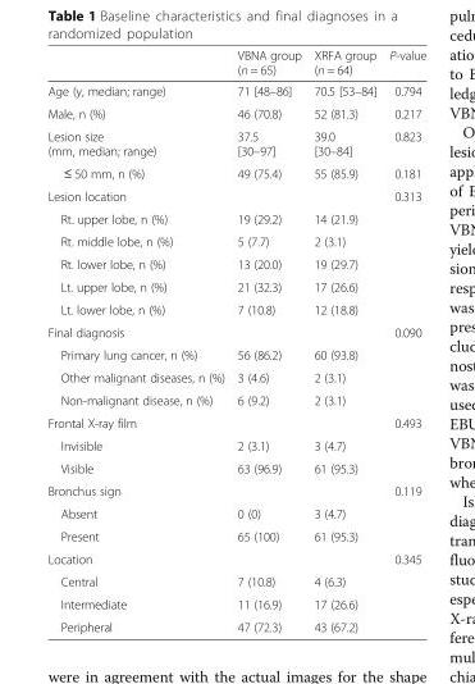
<table><thead><tr><td></td><td>VBNA group (n = 65)</td><td>XRFA group (n = 64)</td><td>P-value</td></tr></thead><tbody><tr><td>Age (y, median; range)</td><td>71 [48–86]</td><td>70.5 [53–84]</td><td>0.794</td></tr><tr><td>Male, n (%)</td><td>46 (70.8)</td><td>52 (81.3)</td><td>0.217</td></tr><tr><td>Lesion size (mm, median; range)</td><td>37.5 [30–97]</td><td>39.0 [30–84]</td><td>0.823</td></tr><tr><td>≤ 50 mm, n (%)</td><td>49 (75.4)</td><td>55 (85.9)</td><td>0.181</td></tr><tr><td>Lesion location</td><td></td><td></td><td>0.313</td></tr><tr><td>Rt. upper lobe, n (%)</td><td>19 (29.2)</td><td>14 (21.9)</td><td></td></tr><tr><td>Rt. middle lobe, n (%)</td><td>5 (7.7)</td><td>2 (3.1)</td><td></td></tr><tr><td>Rt. lower lobe, n (%)</td><td>13 (20.0)</td><td>19 (29.7)</td><td></td></tr><tr><td>Lt. upper lobe, n (%)</td><td>21 (32.3)</td><td>17 (26.6)</td><td></td></tr><tr><td>Lt. lower lobe, n (%)</td><td>7 (10.8)</td><td>12 (18.8)</td><td></td></tr><tr><td>Final diagnosis</td><td></td><td></td><td>0.090</td></tr><tr><td>Primary lung cancer, n (%)</td><td>56 (86.2)</td><td>60 (93.8)</td><td></td></tr><tr><td>Other malignant diseases, n (%)</td><td>3 (4.6)</td><td>2 (3.1)</td><td></td></tr><tr><td>Non-malignant disease, n (%)</td><td>6 (9.2)</td><td>2 (3.1)</td><td></td></tr><tr><td>Frontal X-ray film</td><td></td><td></td><td>0.493</td></tr><tr><td>Invisible</td><td>2 (3.1)</td><td>3 (4.7)</td><td></td></tr><tr><td>Visible</td><td>63 (96.9)</td><td>61 (95.3)</td><td></td></tr><tr><td>Bronchus sign</td><td></td><td></td><td>0.119</td></tr><tr><td>Absent</td><td>0 (0)</td><td>3 (4.7)</td><td></td></tr><tr><td>Present</td><td>65 (100)</td><td>61 (95.3)</td><td></td></tr><tr><td>Location</td><td></td><td></td><td>0.345</td></tr><tr><td>Central</td><td>7 (10.8)</td><td>4 (6.3)</td><td></td></tr><tr><td>Intermediate</td><td>11 (16.9)</td><td>17 (26.6)</td><td></td></tr><tr><td>Peripheral</td><td>47 (72.3)</td><td>43 (67.2)</td><td></td></tr></tbody></table>